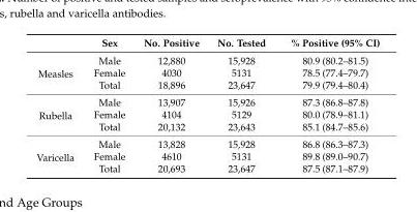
<table><thead><tr><td></td><td>Sex</td><td>No. Positive</td><td>No. Tested</td><td>% Positive (95% CI)</td></tr></thead><tbody><tr><td rowspan="3">Measles</td><td>Male</td><td>12,880</td><td>15,928</td><td>80.9 (80.2–81.5)</td></tr><tr><td>Female</td><td>4030</td><td>5131</td><td>78.5 (77.4–79.7)</td></tr><tr><td>Total</td><td>18,896</td><td>23,647</td><td>79.9 (79.4–80.4)</td></tr><tr><td rowspan="3">Rubella</td><td>Male</td><td>13,907</td><td>15,926</td><td>87.3 (86.8–87.8)</td></tr><tr><td>Female</td><td>4104</td><td>5129</td><td>80.0 (78.9–81.1)</td></tr><tr><td>Total</td><td>20,132</td><td>23,643</td><td>85.1 (84.7–85.6)</td></tr><tr><td rowspan="3">Varicella</td><td>Male</td><td>13,828</td><td>15,928</td><td>86.8 (86.3–87.3)</td></tr><tr><td>Female</td><td>4610</td><td>5131</td><td>89.8 (89.0–90.7)</td></tr><tr><td>Total</td><td>20,693</td><td>23,647</td><td>87.5 (87.1–87.9)</td></tr></tbody></table>